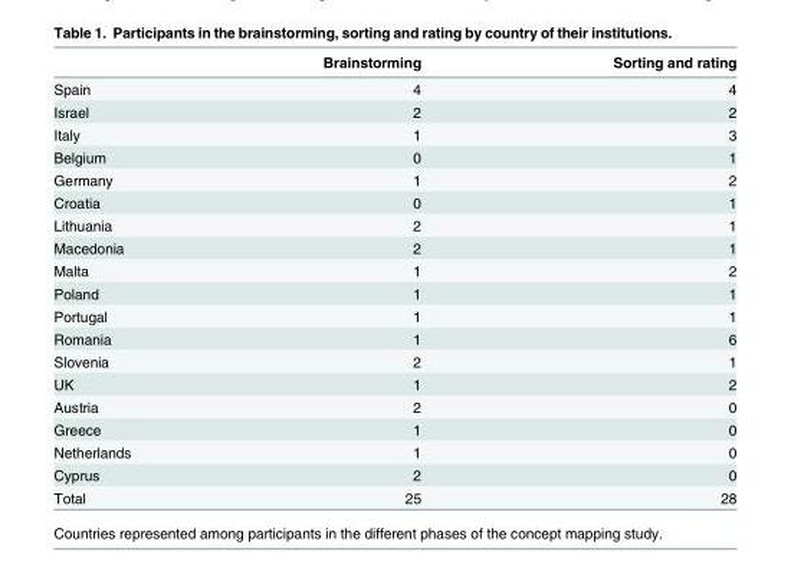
<table><thead><tr><td></td><td>Brainstorming</td><td>Sorting and rating</td></tr></thead><tbody><tr><td>Spain</td><td>4</td><td>4</td></tr><tr><td>Israel</td><td>2</td><td>2</td></tr><tr><td>Italy</td><td>1</td><td>3</td></tr><tr><td>Belgium</td><td>0</td><td>1</td></tr><tr><td>Germany</td><td>1</td><td>2</td></tr><tr><td>Croatia</td><td>0</td><td>1</td></tr><tr><td>Lithuania</td><td>2</td><td>1</td></tr><tr><td>Macedonia</td><td>2</td><td>1</td></tr><tr><td>Malta</td><td>1</td><td>2</td></tr><tr><td>Poland</td><td>1</td><td>1</td></tr><tr><td>Portugal</td><td>1</td><td>1</td></tr><tr><td>Romania</td><td>1</td><td>6</td></tr><tr><td>Slovenia</td><td>2</td><td>1</td></tr><tr><td>UK</td><td>1</td><td>2</td></tr><tr><td>Austria</td><td>2</td><td>0</td></tr><tr><td>Greece</td><td>1</td><td>0</td></tr><tr><td>Netherlands</td><td>1</td><td>0</td></tr><tr><td>Cyprus</td><td>2</td><td>0</td></tr><tr><td>Total</td><td>25</td><td>28</td></tr></tbody></table>